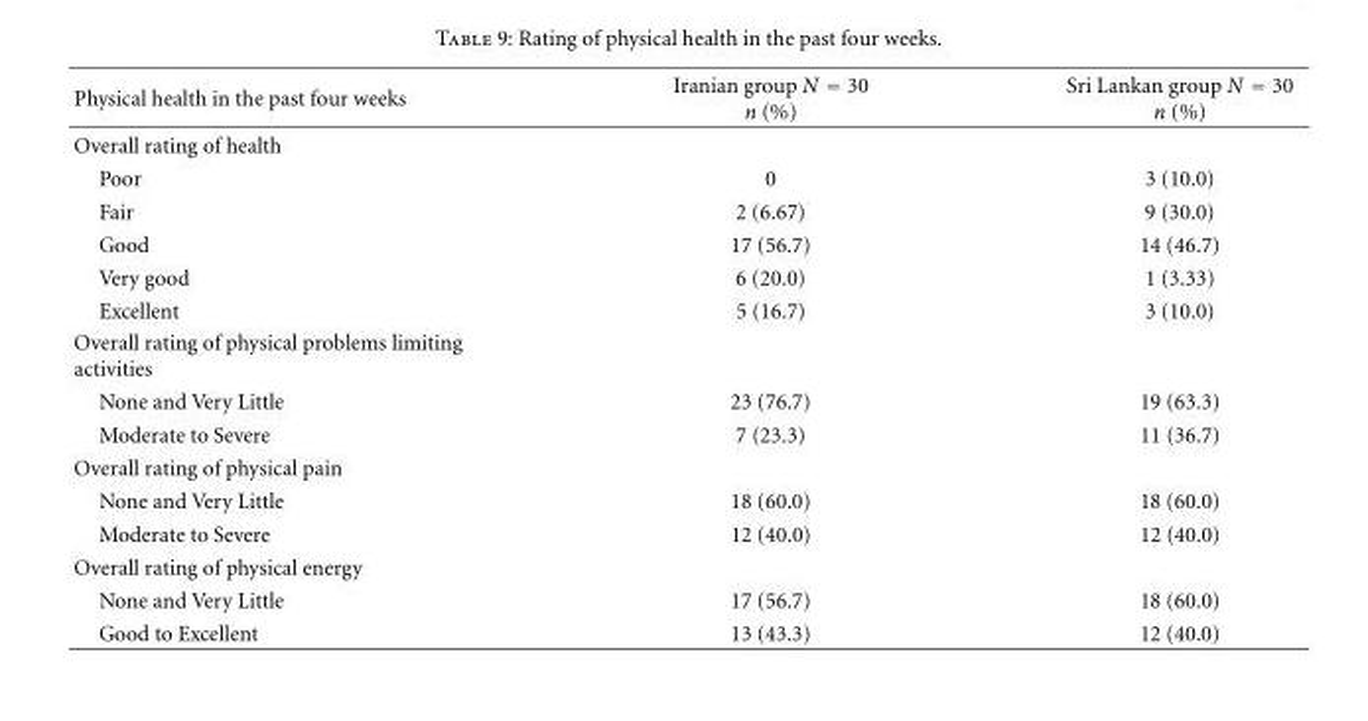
<table><thead><tr><td>Physical health in the past four weeks</td><td>Iranian group N = 30 n (%)</td><td>Sri Lankan group N = 30 n (%)</td></tr></thead><tbody><tr><td colspan="3">Overall rating of health</td></tr><tr><td>Poor</td><td>0</td><td>3 (10.0)</td></tr><tr><td>Fair</td><td>2 (6.67)</td><td>9 (30.0)</td></tr><tr><td>Good</td><td>17 (56.7)</td><td>14 (46.7)</td></tr><tr><td>Very good</td><td>6 (20.0)</td><td>1 (3.33)</td></tr><tr><td>Excellent</td><td>5 (16.7)</td><td>3 (10.0)</td></tr><tr><td colspan="3">Overall rating of physical problems limiting activities</td></tr><tr><td>None and Very Little</td><td>23 (76.7)</td><td>19 (63.3)</td></tr><tr><td>Moderate to Severe</td><td>7 (23.3)</td><td>11 (36.7)</td></tr><tr><td colspan="3">Overall rating of physical pain</td></tr><tr><td>None and Very Little</td><td>18 (60.0)</td><td>18 (60.0)</td></tr><tr><td>Moderate to Severe</td><td>12 (40.0)</td><td>12 (40.0)</td></tr><tr><td colspan="3">Overall rating of physical energy</td></tr><tr><td>None and Very Little</td><td>17 (56.7)</td><td>18 (60.0)</td></tr><tr><td>Good to Excellent</td><td>13 (43.3)</td><td>12 (40.0)</td></tr></tbody></table>